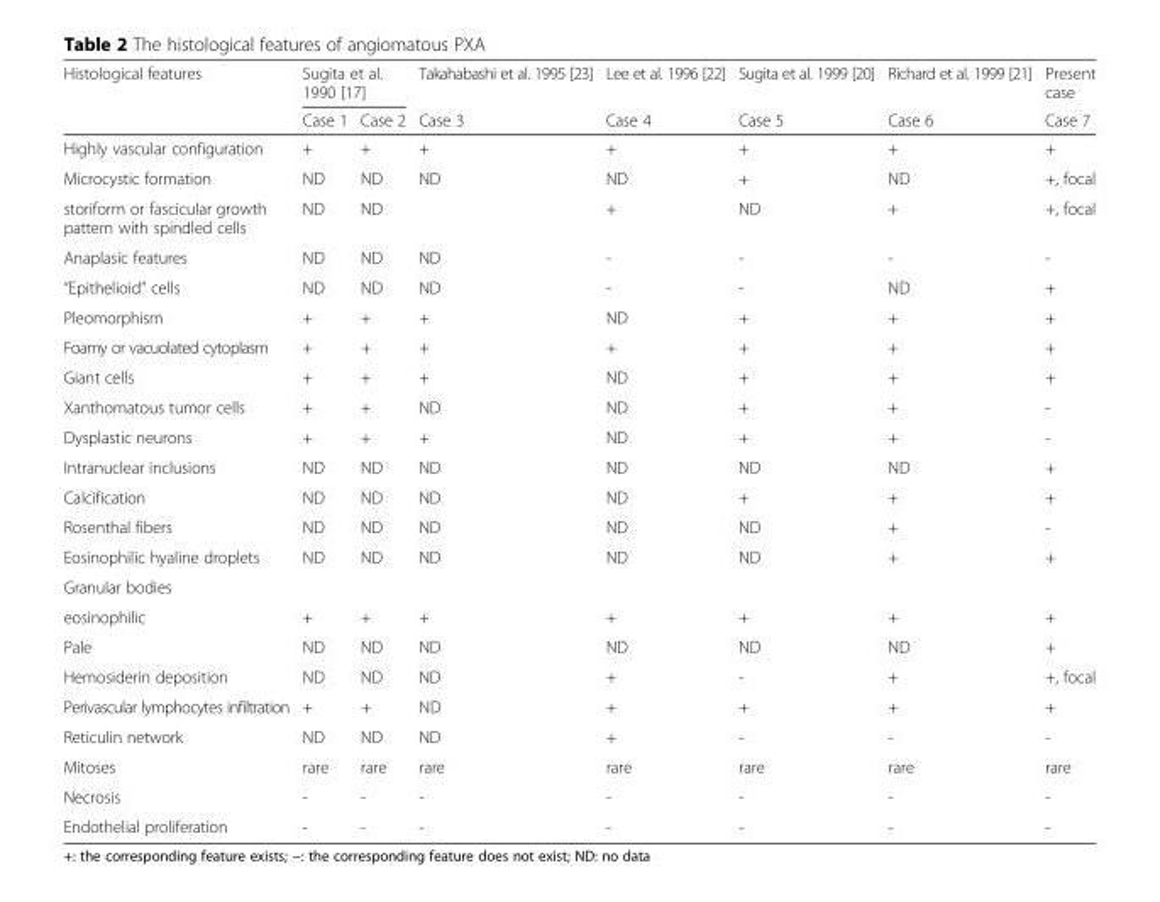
<table><thead><tr><td rowspan="2">Histological features</td><td colspan="2">Sugita et al. 1990 [17]</td><td rowspan="2">Takahabashi et al. 1995 [23] Case 3</td><td rowspan="2">Lee et al. 1996 [22] Case 4</td><td rowspan="2">Sugita et al. 1999 [20] Case 5</td><td rowspan="2">Richard et al. 1999 [21] Case 6</td><td rowspan="2">Present case Case 7</td></tr><tr><td>Case 1</td><td>Case 2</td></tr></thead><tbody><tr><td>Highly vascular configuration</td><td>+</td><td>+</td><td>+</td><td>+</td><td>+</td><td>+</td><td>+</td></tr><tr><td>Microcystic formation</td><td>ND</td><td>ND</td><td>ND</td><td>ND</td><td>+</td><td>ND</td><td>+, focal</td></tr><tr><td>storiform or fascicular growth pattern with spindled cells</td><td>ND</td><td>ND</td><td></td><td>+</td><td>ND</td><td>+</td><td>+, focal</td></tr><tr><td>Anaplasic features</td><td>ND</td><td>ND</td><td>ND</td><td>-</td><td>-</td><td>-</td><td>-</td></tr><tr><td>“Epithelioid” cells</td><td>ND</td><td>ND</td><td>ND</td><td>-</td><td>-</td><td>ND</td><td>+</td></tr><tr><td>Pleomorphism</td><td>+</td><td>+</td><td>+</td><td>ND</td><td>+</td><td>+</td><td>+</td></tr><tr><td>Foamy or vacuolated cytoplasm</td><td>+</td><td>+</td><td>+</td><td>+</td><td>+</td><td>+</td><td>+</td></tr><tr><td>Giant cells</td><td>+</td><td>+</td><td>+</td><td>ND</td><td>+</td><td>+</td><td>+</td></tr><tr><td>Xanthomatous tumor cells</td><td>+</td><td>+</td><td>ND</td><td>ND</td><td>+</td><td>+</td><td>-</td></tr><tr><td>Dysplastic neurons</td><td>+</td><td>+</td><td>+</td><td>ND</td><td>+</td><td>+</td><td>-</td></tr><tr><td>Intranuclear inclusions</td><td>ND</td><td>ND</td><td>ND</td><td>ND</td><td>ND</td><td>ND</td><td>+</td></tr><tr><td>Calcification</td><td>ND</td><td>ND</td><td>ND</td><td>ND</td><td>+</td><td>+</td><td>+</td></tr><tr><td>Rosenthal fibers</td><td>ND</td><td>ND</td><td>ND</td><td>ND</td><td>ND</td><td>+</td><td>-</td></tr><tr><td>Eosinophilic hyaline droplets</td><td>ND</td><td>ND</td><td>ND</td><td>ND</td><td>ND</td><td>+</td><td>+</td></tr><tr><td colspan="8">Granular bodies</td></tr><tr><td>eosinophilic</td><td>+</td><td>+</td><td>+</td><td>+</td><td>+</td><td>+</td><td>+</td></tr><tr><td>Pale</td><td>ND</td><td>ND</td><td>ND</td><td>ND</td><td>ND</td><td>ND</td><td>+</td></tr><tr><td>Hemosiderin deposition</td><td>ND</td><td>ND</td><td>ND</td><td>+</td><td>-</td><td>+</td><td>+, focal</td></tr><tr><td>Perivascular lymphocytes infiltration</td><td>+</td><td>+</td><td>ND</td><td>+</td><td>+</td><td>+</td><td>+</td></tr><tr><td>Reticulin network</td><td>ND</td><td>ND</td><td>ND</td><td>+</td><td>-</td><td>-</td><td>-</td></tr><tr><td>Mitoses</td><td>rare</td><td>rare</td><td>rare</td><td>rare</td><td>rare</td><td>rare</td><td>rare</td></tr><tr><td>Necrosis</td><td>-</td><td>-</td><td>-</td><td>-</td><td>-</td><td>-</td><td>-</td></tr><tr><td>Endothelial proliferation</td><td>-</td><td>-</td><td>-</td><td>-</td><td>-</td><td>-</td><td>-</td></tr></tbody></table>